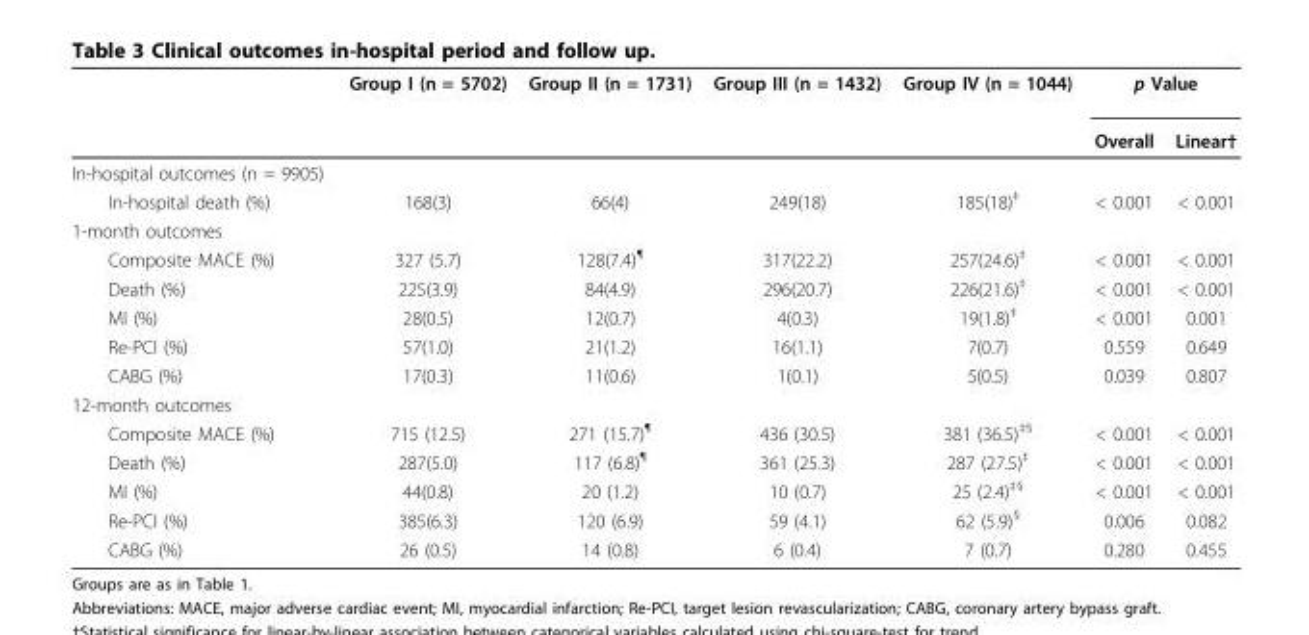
<table><thead><tr><td rowspan="2"></td><td rowspan="2">Group I (n = 5702)</td><td rowspan="2">Group II (n = 1731)</td><td rowspan="2">Group III (n = 1432)</td><td rowspan="2">Group IV (n = 1044)</td><td colspan="2">p Value</td></tr><tr><td>Overall</td><td>Linear†</td></tr></thead><tbody><tr><td colspan="7">In-hospital outcomes (n = 9905)</td></tr><tr><td>In-hospital death (%)</td><td>168(3)</td><td>66(4)</td><td>249(18)</td><td>185(18)<sup>‡</sup></td><td>&lt; 0.001</td><td>&lt; 0.001</td></tr><tr><td colspan="7">1-month outcomes</td></tr><tr><td>Composite MACE (%)</td><td>327 (5.7)</td><td>128(7.4)<sup>¶</sup></td><td>317(22.2)</td><td>257(24.6)<sup>‡</sup></td><td>&lt; 0.001</td><td>&lt; 0.001</td></tr><tr><td>Death (%)</td><td>225(3.9)</td><td>84(4.9)</td><td>296(20.7)</td><td>226(21.6)<sup>‡</sup></td><td>&lt; 0.001</td><td>&lt; 0.001</td></tr><tr><td>MI (%)</td><td>28(0.5)</td><td>12(0.7)</td><td>4(0.3)</td><td>19(1.8)<sup>‡</sup></td><td>&lt; 0.001</td><td>0.001</td></tr><tr><td>Re-PCI (%)</td><td>57(1.0)</td><td>21(1.2)</td><td>16(1.1)</td><td>7(0.7)</td><td>0.559</td><td>0.649</td></tr><tr><td>CABG (%)</td><td>17(0.3)</td><td>11(0.6)</td><td>1(0.1)</td><td>5(0.5)</td><td>0.039</td><td>0.807</td></tr><tr><td colspan="7">12-month outcomes</td></tr><tr><td>Composite MACE (%)</td><td>715 (12.5)</td><td>271 (15.7)<sup>¶</sup></td><td>436 (30.5)</td><td>381 (36.5)<sup>‡§</sup></td><td>&lt; 0.001</td><td>&lt; 0.001</td></tr><tr><td>Death (%)</td><td>287(5.0)</td><td>117 (6.8)<sup>¶</sup></td><td>361 (25.3)</td><td>287 (27.5)<sup>‡</sup></td><td>&lt; 0.001</td><td>&lt; 0.001</td></tr><tr><td>MI (%)</td><td>44(0.8)</td><td>20 (1.2)</td><td>10 (0.7)</td><td>25 (2.4)<sup>‡§</sup></td><td>&lt; 0.001</td><td>&lt; 0.001</td></tr><tr><td>Re-PCI (%)</td><td>385(6.3)</td><td>120 (6.9)</td><td>59 (4.1)</td><td>62 (5.9)<sup>§</sup></td><td>0.006</td><td>0.082</td></tr><tr><td>CABG (%)</td><td>26 (0.5)</td><td>14 (0.8)</td><td>6 (0.4)</td><td>7 (0.7)</td><td>0.280</td><td>0.455</td></tr></tbody></table>